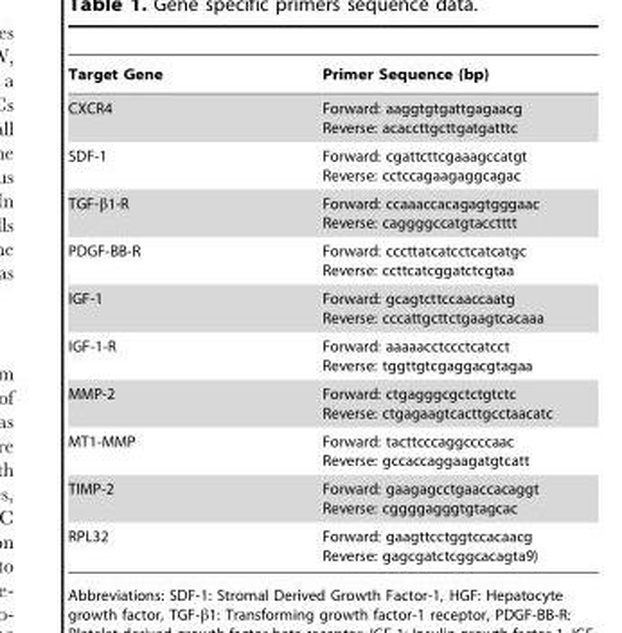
<table><thead><tr><td>Target Gene</td><td>Primer Sequence (bp)</td></tr></thead><tbody><tr><td>CXCR4</td><td>Forward: aaggtgtgattgagaacg Reverse: acaccttgcttgatgatttc</td></tr><tr><td>SDF-1</td><td>Forward: cgattcttcgaaagccatgt Reverse: cctccagaagaggcagac</td></tr><tr><td>TGF-β1-R</td><td>Forward: ccaaaccacagagtgggaac Reverse: caggggccatgtacctttt</td></tr><tr><td>PDGF-BB-R</td><td>Forward: cccttatcatcctcatcatgc Reverse: ccttcatcggatctcgtaa</td></tr><tr><td>IGF-1</td><td>Forward: gcagtcttccaaccaatg Reverse: cccattgcttctgaagtcacaaa</td></tr><tr><td>IGF-1-R</td><td>Forward: aaaaacctccctcatcct Reverse: tggttgtcgaggacgtagaa</td></tr><tr><td>MMP-2</td><td>Forward: ctgagggcgctctgtctc Reverse: ctgagaagtcacttgcctaacatc</td></tr><tr><td>MT1-MMP</td><td>Forward: tacttcccaggccccaac Reverse: gccaccaggaagatgtcatt</td></tr><tr><td>TIMP-2</td><td>Forward: gaagagcctgaaccacaggt Reverse: cggggagggtgtagcac</td></tr><tr><td>RPL32</td><td>Forward: gaagttcctggtccacaacg Reverse: gagcgatctcggcacagta9)</td></tr></tbody></table>